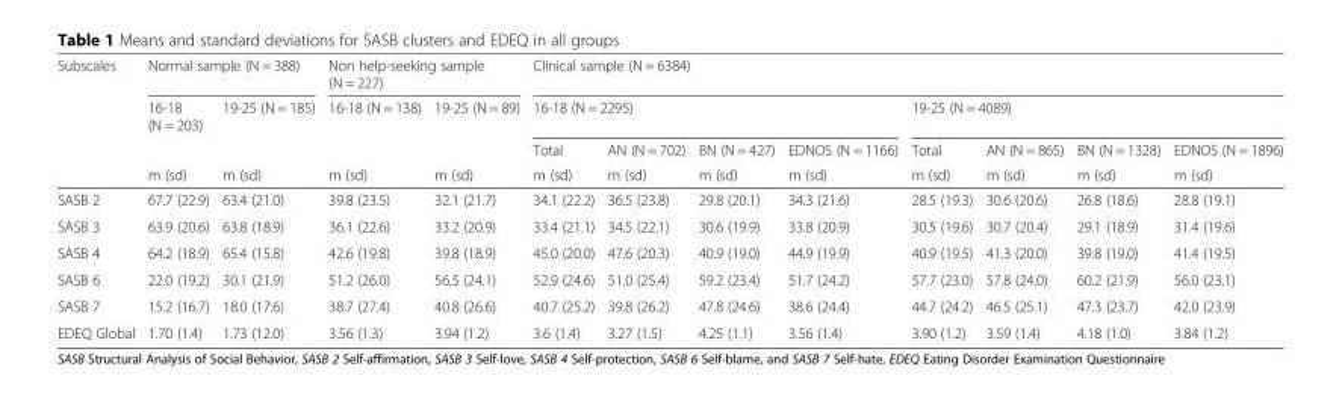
<table><thead><tr><td rowspan="4">Subscales</td><td colspan="2">Normal sample (N = 388)</td><td colspan="2">Non help-seeking sample (N = 227)</td><td colspan="8">Clinical sample (N = 6384)</td></tr><tr><td rowspan="3">16-18 (N = 203) m (sd)</td><td rowspan="3">19-25 (N = 185) m (sd)</td><td rowspan="3">16-18 (N = 138) m (sd)</td><td rowspan="3">19-25 (N = 89) m (sd)</td><td colspan="4">16-18 (N = 2295)</td><td colspan="4">19-25 (N = 4089)</td></tr><tr><td rowspan="2">Total m (sd)</td><td rowspan="2">AN (N = 702) m (sd)</td><td rowspan="2">BN (N = 427) m (sd)</td><td rowspan="2">EDNOS (N = 1166) m (sd)</td><td rowspan="2">Total m (sd)</td><td rowspan="2">AN (N = 865) m (sd)</td><td rowspan="2">BN (N = 1328) m (sd)</td><td rowspan="2">EDNOS (N = 1896) m (sd)</td></tr><tr></tr></thead><tbody><tr><td>SASB 2</td><td>67.7 (22.9)</td><td>63.4 (21.0)</td><td>39.8 (23.5)</td><td>32.1 (21.7)</td><td>34.1 (22.2)</td><td>36.5 (23.8)</td><td>29.8 (20.1)</td><td>34.3 (21.6)</td><td>28.5 (19.3)</td><td>30.6 (20.6)</td><td>26.8 (18.6)</td><td>28.8 (19.1)</td></tr><tr><td>SASB 3</td><td>63.9 (20.6)</td><td>63.8 (18.9)</td><td>36.1 (22.6)</td><td>33.2 (20.9)</td><td>33.4 (21.1)</td><td>34.5 (22.1)</td><td>30.6 (19.9)</td><td>33.8 (20.9)</td><td>30.5 (19.6)</td><td>30.7 (20.4)</td><td>29.1 (18.9)</td><td>31.4 (19.6)</td></tr><tr><td>SASB 4</td><td>64.2 (18.9)</td><td>65.4 (15.8)</td><td>42.6 (19.8)</td><td>39.8 (18.9)</td><td>45.0 (20.0)</td><td>47.6 (20.3)</td><td>40.9 (19.0)</td><td>44.9 (19.9)</td><td>40.9 (19.5)</td><td>41.3 (20.0)</td><td>39.8 (19.0)</td><td>41.4 (19.5)</td></tr><tr><td>SASB 6</td><td>22.0 (19.2)</td><td>30.1 (21.9)</td><td>51.2 (26.0)</td><td>56.5 (24.1)</td><td>52.9 (24.6)</td><td>51.0 (25.4)</td><td>59.2 (23.4)</td><td>51.7 (24.2)</td><td>57.7 (23.0)</td><td>57.8 (24.0)</td><td>60.2 (21.9)</td><td>56.0 (23.1)</td></tr><tr><td>SASB 7</td><td>15.2 (16.7)</td><td>18.0 (17.6)</td><td>38.7 (27.4)</td><td>40.8 (26.6)</td><td>40.7 (25.2)</td><td>39.8 (26.2)</td><td>47.8 (24.6)</td><td>38.6 (24.4)</td><td>44.7 (24.2)</td><td>46.5 (25.1)</td><td>47.3 (23.7)</td><td>42.0 (23.9)</td></tr><tr><td>EDEQ Global</td><td>1.70 (1.4)</td><td>1.73 (12.0)</td><td>3.56 (1.3)</td><td>3.94 (1.2)</td><td>3.6 (1.4)</td><td>3.27 (1.5)</td><td>4.25 (1.1)</td><td>3.56 (1.4)</td><td>3.90 (1.2)</td><td>3.59 (1.4)</td><td>4.18 (1.0)</td><td>3.84 (1.2)</td></tr></tbody></table>